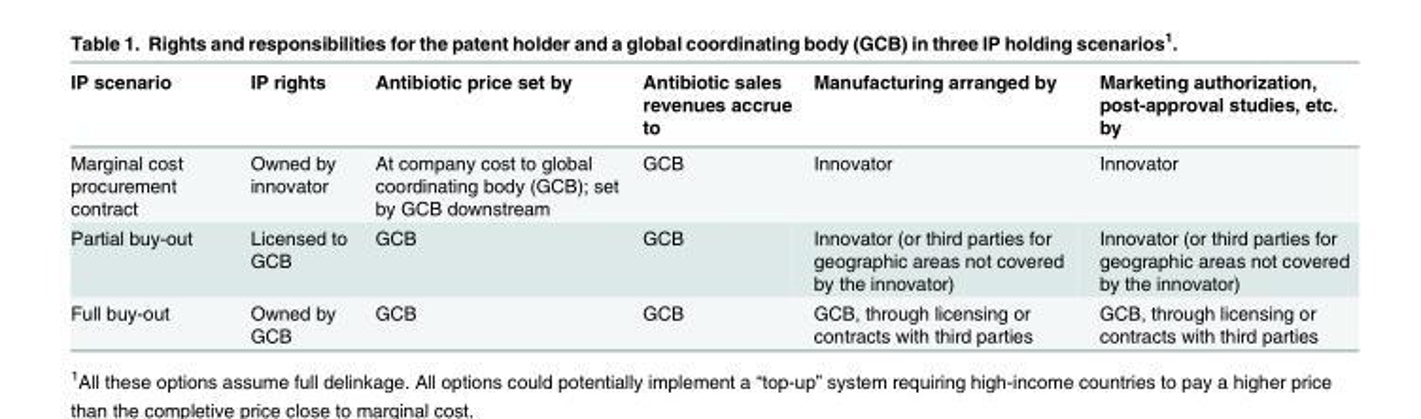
<table><thead><tr><td>IP scenario</td><td>IP rights</td><td>Antibiotic price set by</td><td>Antibiotic sales revenues accrue to</td><td>Manufacturing arranged by</td><td>Marketing authorization, post-approval studies, etc. by</td></tr></thead><tbody><tr><td>Marginal cost procurement contract</td><td>Owned by innovator</td><td>At company cost to global coordinating body (GCB); set by GCB downstream</td><td>GCB</td><td>Innovator</td><td>Innovator</td></tr><tr><td>Partial buy-out</td><td>Licensed to GCB</td><td>GCB</td><td>GCB</td><td>Innovator (or third parties for geographic areas not covered by the innovator)</td><td>Innovator (or third parties for geographic areas not covered by the innovator)</td></tr><tr><td>Full buy-out</td><td>Owned by GCB</td><td>GCB</td><td>GCB</td><td>GCB, through licensing or contracts with third parties</td><td>GCB, through licensing or contracts with third parties</td></tr></tbody></table>